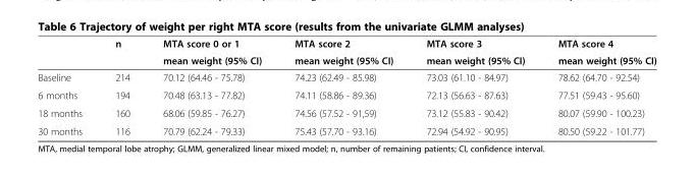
<table><thead><tr><td rowspan="2"></td><td rowspan="2">n</td><td rowspan="2">MTA score 0 or 1 mean weight (95% CI)</td><td rowspan="2">MTA score 2 mean weight (95% CI)</td><td rowspan="2">MTA score 3 mean weight (95% CI)</td><td rowspan="2">MTA score 4 mean weight (95% CI)</td></tr><tr></tr></thead><tbody><tr><td>Baseline</td><td>214</td><td>70.12 (64.46 - 75.78)</td><td>74.23 (62.49 - 85.98)</td><td>73.03 (61.10 - 84.97)</td><td>78.62 (64.70 - 92.54)</td></tr><tr><td>6 months</td><td>194</td><td>70.48 (63.13 - 77.82)</td><td>74.11 (58.86 - 89.36)</td><td>72.13 (56.63 - 87.63)</td><td>77.51 (59.43 - 95.60)</td></tr><tr><td>18 months</td><td>160</td><td>68.06 (59.85 - 76.27)</td><td>74.56 (57.52 - 91,59)</td><td>73.12 (55.83 - 90.42)</td><td>80.07 (59.90 - 100.23)</td></tr><tr><td>30 months</td><td>116</td><td>70.79 (62.24 - 79.33)</td><td>75.43 (57.70 - 93.16)</td><td>72.94 (54.92 - 90.95)</td><td>80.50 (59.22 - 101.77)</td></tr></tbody></table>